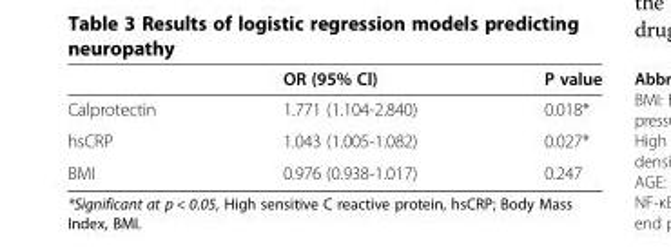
<table><thead><tr><td></td><td>OR (95% Cl)</td><td>P value</td></tr></thead><tbody><tr><td>Calprotectin</td><td>1.771 (1.104-2.840)</td><td>0.018*</td></tr><tr><td>hsCRP</td><td>1.043 (1.005-1.082)</td><td>0.027*</td></tr><tr><td>BMI</td><td>0.976 (0.938-1.017)</td><td>0.247</td></tr></tbody></table>